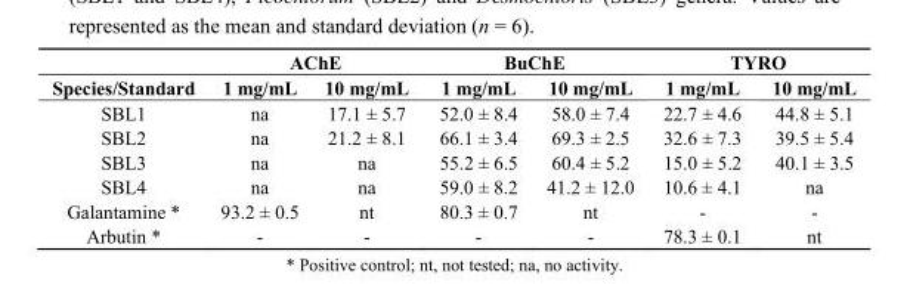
<table><thead><tr><td rowspan="2">Species/Standard</td><td colspan="2">AChE</td><td colspan="2">BuChE</td><td colspan="2">TYRO</td></tr><tr><td>1 mg/mL</td><td>10 mg/mL</td><td>1 mg/mL</td><td>10 mg/mL</td><td>1 mg/mL</td><td>10 mg/mL</td></tr></thead><tbody><tr><td>SBL1</td><td>na</td><td>17.1 ± 5.7</td><td>52.0 ± 8.4</td><td>58.0 ± 7.4</td><td>22.7 ± 4.6</td><td>44.8 ± 5.1</td></tr><tr><td>SBL2</td><td>na</td><td>21.2 ± 8.1</td><td>66.1 ± 3.4</td><td>69.3 ± 2.5</td><td>32.6 ± 7.3</td><td>39.5 ± 5.4</td></tr><tr><td>SBL3</td><td>na</td><td>na</td><td>55.2 ± 6.5</td><td>60.4 ± 5.2</td><td>15.0 ± 5.2</td><td>40.1 ± 3.5</td></tr><tr><td>SBL4</td><td>na</td><td>na</td><td>59.0 ± 8.2</td><td>41.2 ± 12.0</td><td>10.6 ± 4.1</td><td>na</td></tr><tr><td>Galantamine *</td><td>93.2 ± 0.5</td><td>nt</td><td>80.3 ± 0.7</td><td>nt</td><td>-</td><td>-</td></tr><tr><td>Arbutin *</td><td>-</td><td>-</td><td>-</td><td>-</td><td>78.3 ± 0.1</td><td>nt</td></tr></tbody></table>